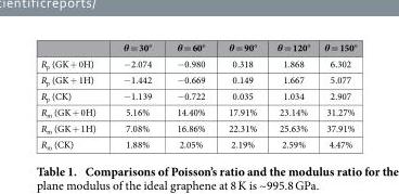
<table><thead><tr><td></td><td>θ = 30°</td><td>θ = 60°</td><td>θ = 90°</td><td>θ = 120°</td><td>θ = 150°</td></tr></thead><tbody><tr><td>R<sub>p</sub> (GK + 0H)</td><td>− 2.074</td><td>− 0.980</td><td>0.318</td><td>1.868</td><td>6.302</td></tr><tr><td>R<sub>p</sub> (GK + 1H)</td><td>− 1.442</td><td>− 0.669</td><td>0.149</td><td>1.667</td><td>5.077</td></tr><tr><td>R<sub>p</sub> (CK)</td><td>− 1.139</td><td>− 0.722</td><td>0.035</td><td>1.034</td><td>2.907</td></tr><tr><td>R<sub>m</sub> (GK + 0H)</td><td>5.16%</td><td>14.40%</td><td>17.91%</td><td>23.14%</td><td>31.27%</td></tr><tr><td>R<sub>m</sub> (GK + 1H)</td><td>7.08%</td><td>16.86%</td><td>22.31%</td><td>25.63%</td><td>37.91%</td></tr><tr><td>R<sub>m</sub> (CK)</td><td>1.88%</td><td>2.05%</td><td>2.19%</td><td>2.59%</td><td>4.47%</td></tr></tbody></table>